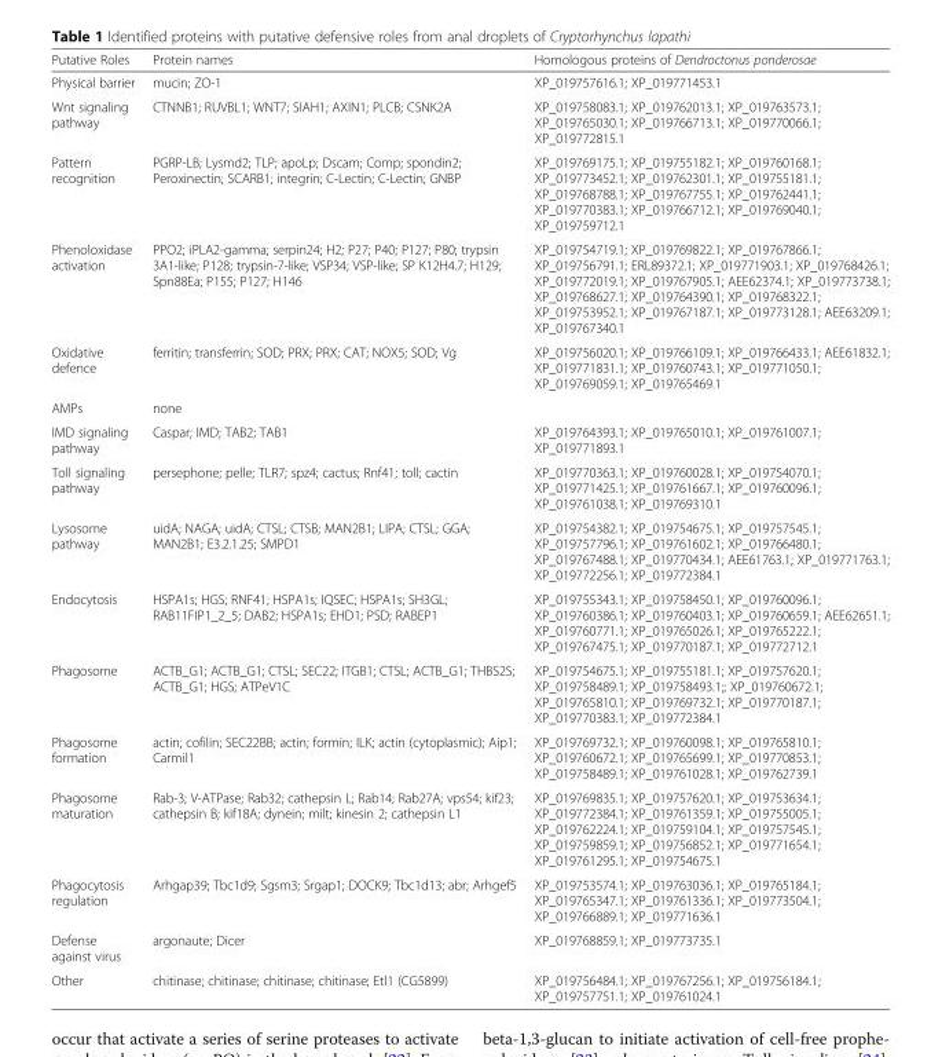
<table><thead><tr><td>Putative Roles</td><td>Protein names</td><td>Homologous proteins of Dendroctonus ponderosae</td></tr></thead><tbody><tr><td>Physical barrier</td><td>mucin; ZO-1</td><td>XP_019757616.1; XP_019771453.1</td></tr><tr><td>Wnt signaling pathway</td><td>CTNNB1; RUVBL1; WNT7; SIAH1; AXIN1; PLCB; CSNK2A</td><td>XP_019758083.1; XP_019762013.1; XP_019763573.1; XP_019765030.1; XP_019766713.1; XP_019770066.1; XP_019772815.1</td></tr><tr><td>Pattern recognition</td><td>PGRP-LB; Lysmd2; TLP; apoLp; Dscam; Comp; spondin2; Peroxinectin; SCARB1; integrin; C-Lectin; C-Lectin; GNBP</td><td>XP_019769175.1; XP_019755182.1; XP_019760168.1; XP_019773452.1; XP_019762301.1; XP_019755181.1; XP_019768788.1; XP_019767755.1; XP_019762441.1; XP_019770383.1; XP_019766712.1; XP_019769040.1; XP_019759712.1</td></tr><tr><td>Phenoloxidase activation</td><td>PPO2; iPLA2-gamma; serpin24; H2; P27; P40; P127; P80; trypsin 3A1-like; P128; trypsin-7-like; VSP34; VSP-like; SP K12H4.7; H129; Spn88Ea; P155; P127; H146</td><td>XP_019754719.1; XP_019769822.1; XP_019767866.1; XP_019756791.1; ERL89372.1; XP_019771903.1; XP_019768426.1; XP_019772019.1; XP_019767905.1; AEE62374.1; XP_019773738.1; XP_019768627.1; XP_019764390.1; XP_019768322.1; XP_019753952.1; XP_019767187.1; XP_019773128.1; AEE63209.1; XP_019767340.1</td></tr><tr><td>Oxidative defence</td><td>ferritin; transferrin; SOD; PRX; PRX; CAT; NOX5; SOD; Vg</td><td>XP_019756020.1; XP_019766109.1; XP_019766433.1; AEE61832.1; XP_019771831.1; XP_019760743.1; XP_019771050.1; XP_019769059.1; XP_019765469.1</td></tr><tr><td>AMPs</td><td>none</td><td></td></tr><tr><td>IMD signaling pathway</td><td>Caspar; IMD; TAB2; TAB1</td><td>XP_019764393.1; XP_019765010.1; XP_019761007.1; XP_019771893.1</td></tr><tr><td>Toll signaling pathway</td><td>persephone; pelle; TLR7; spz4; cactus; Rnf41; toll; cactin</td><td>XP_019770363.1; XP_019760028.1; XP_019754070.1; XP_019771425.1; XP_019761667.1; XP_019760096.1; XP_019761038.1; XP_019769310.1</td></tr><tr><td>Lysosome pathway</td><td>uidA; NAGA; uidA; CTSL; CTSB; MAN2B1; LIPA; CTSL; GGA; MAN2B1; E3.2.1.25; SMPD1</td><td>XP_019754382.1; XP_019754675.1; XP_019757545.1; XP_019757796.1; XP_019761602.1; XP_019766480.1; XP_019767488.1; XP_019770434.1; AEE61763.1; XP_019771763.1; XP_019772256.1; XP_019772384.1</td></tr><tr><td>Endocytosis</td><td>HSPA1s; HGS; RNF41; HSPA1s; IQSEC; HSPA1s; SH3GL; RAB11FIP1_2_5; DAB2; HSPA1s; EHD1; PSD; RABEP1</td><td>XP_019755343.1; XP_019758450.1; XP_019760096.1; XP_019760386.1; XP_019760403.1; XP_019760659.1; AEE62651.1; XP_019760771.1; XP_019765026.1; XP_019765222.1; XP_019767475.1; XP_019770187.1; XP_019772712.1</td></tr><tr><td>Phagosome</td><td>ACTB_G1; ACTB_G1; CTSL; SEC22; ITGB1; CTSL; ACTB_G1; THBS2S; ACTB_G1; HGS; ATPeV1C</td><td>XP_019754675.1; XP_019755181.1; XP_019757620.1; XP_019758489.1; XP_019758493.1;; XP_019760672.1; XP_019765810.1; XP_019769732.1; XP_019770187.1; XP_019770383.1; XP_019772384.1</td></tr><tr><td>Phagosome formation</td><td>actin; cofilin; SEC22BB; actin; formin; ILK; actin (cytoplasmic); Aip1; Carmil1</td><td>XP_019769732.1; XP_019760098.1; XP_019765810.1; XP_019760672.1; XP_019765699.1; XP_019770853.1; XP_019758489.1; XP_019761028.1; XP_019762739.1</td></tr><tr><td>Phagosome maturation</td><td>Rab-3; V-ATPase; Rab32; cathepsin L; Rab14; Rab27A; vps54; kif23; cathepsin B; kif18A; dynein; milt; kinesin 2; cathepsin L1</td><td>XP_019769835.1; XP_019757620.1; XP_019753634.1; XP_019772384.1; XP_019761359.1; XP_019755005.1; XP_019762224.1; XP_019759104.1; XP_019757545.1; XP_019759859.1; XP_019756852.1; XP_019771654.1; XP_019761295.1; XP_019754675.1</td></tr><tr><td>Phagocytosis regulation</td><td>Arhgap39; Tbc1d9; Sgsm3; Srgap1; DOCK9; Tbc1d13; abr; Arhgef5</td><td>XP_019753574.1; XP_019763036.1; XP_019765184.1; XP_019765347.1; XP_019761336.1; XP_019773504.1; XP_019766889.1; XP_019771636.1</td></tr><tr><td>Defense against virus</td><td>argonaute; Dicer</td><td>XP_019768859.1; XP_019773735.1</td></tr><tr><td>Other</td><td>chitinase; chitinase; chitinase; chitinase; Etl1 (CG5899)</td><td>XP_019756484.1; XP_019767256.1; XP_019756184.1; XP_019757751.1; XP_019761024.1</td></tr></tbody></table>